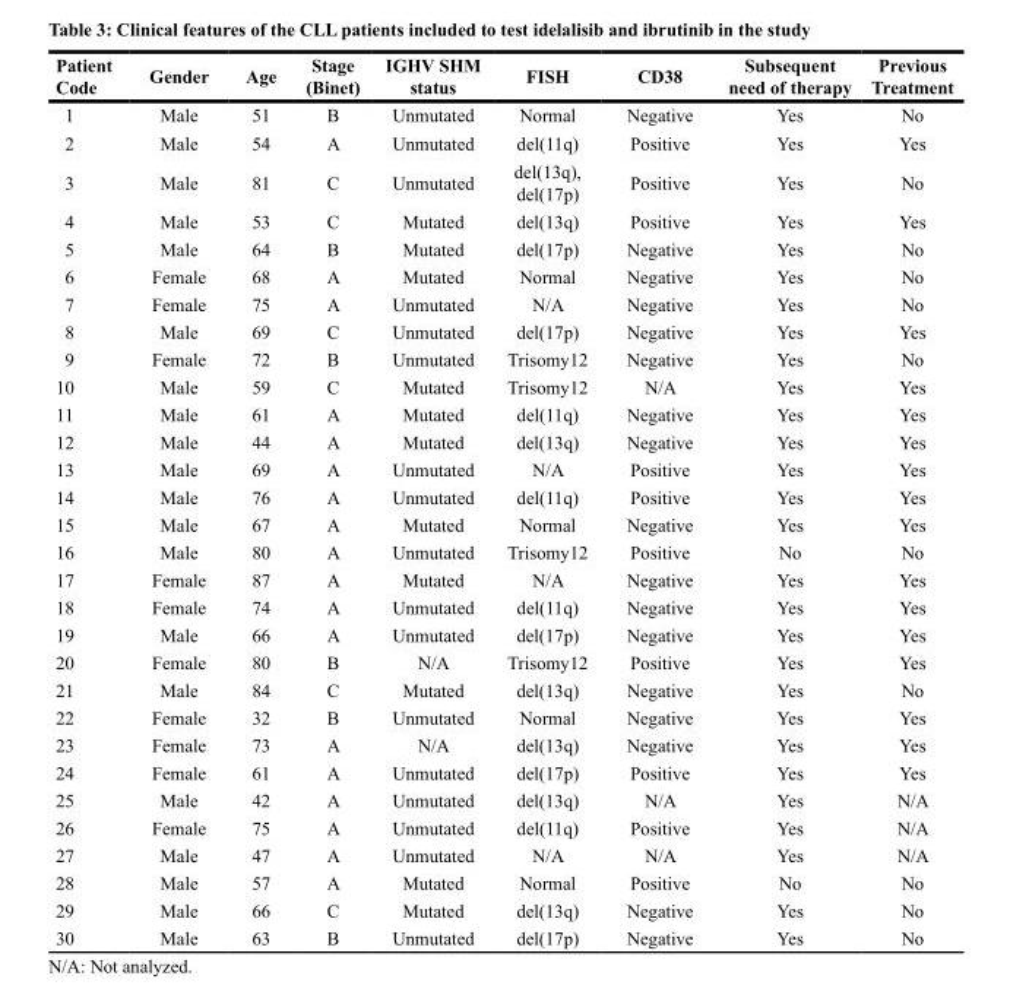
<table><thead><tr><td>Patient Code</td><td>Gender</td><td>Age</td><td>Stage (Binet)</td><td>IGHV SHM status</td><td>FISH</td><td>CD38</td><td>Subsequent need of therapy</td><td>Previous Treatment</td></tr></thead><tbody><tr><td>1</td><td>Male</td><td>51</td><td>B</td><td>Unmutated</td><td>Normal</td><td>Negative</td><td>Yes</td><td>No</td></tr><tr><td>2</td><td>Male</td><td>54</td><td>A</td><td>Unmutated</td><td>del(11q)</td><td>Positive</td><td>Yes</td><td>Yes</td></tr><tr><td>3</td><td>Male</td><td>81</td><td>C</td><td>Unmutated</td><td>del(13q), del(17p)</td><td>Positive</td><td>Yes</td><td>No</td></tr><tr><td>4</td><td>Male</td><td>53</td><td>C</td><td>Mutated</td><td>del(13q)</td><td>Positive</td><td>Yes</td><td>Yes</td></tr><tr><td>5</td><td>Male</td><td>64</td><td>B</td><td>Mutated</td><td>del(17p)</td><td>Negative</td><td>Yes</td><td>No</td></tr><tr><td>6</td><td>Female</td><td>68</td><td>A</td><td>Mutated</td><td>Normal</td><td>Negative</td><td>Yes</td><td>No</td></tr><tr><td>7</td><td>Female</td><td>75</td><td>A</td><td>Unmutated</td><td>N/A</td><td>Negative</td><td>Yes</td><td>No</td></tr><tr><td>8</td><td>Male</td><td>69</td><td>C</td><td>Unmutated</td><td>del(17p)</td><td>Negative</td><td>Yes</td><td>Yes</td></tr><tr><td>9</td><td>Female</td><td>72</td><td>B</td><td>Unmutated</td><td>Trisomy12</td><td>Negative</td><td>Yes</td><td>No</td></tr><tr><td>10</td><td>Male</td><td>59</td><td>C</td><td>Mutated</td><td>Trisomy12</td><td>N/A</td><td>Yes</td><td>Yes</td></tr><tr><td>11</td><td>Male</td><td>61</td><td>A</td><td>Mutated</td><td>del(11q)</td><td>Negative</td><td>Yes</td><td>Yes</td></tr><tr><td>12</td><td>Male</td><td>44</td><td>A</td><td>Mutated</td><td>del(13q)</td><td>Negative</td><td>Yes</td><td>Yes</td></tr><tr><td>13</td><td>Male</td><td>69</td><td>A</td><td>Unmutated</td><td>N/A</td><td>Positive</td><td>Yes</td><td>Yes</td></tr><tr><td>14</td><td>Male</td><td>76</td><td>A</td><td>Unmutated</td><td>del(11q)</td><td>Positive</td><td>Yes</td><td>Yes</td></tr><tr><td>15</td><td>Male</td><td>67</td><td>A</td><td>Mutated</td><td>Normal</td><td>Negative</td><td>Yes</td><td>Yes</td></tr><tr><td>16</td><td>Male</td><td>80</td><td>A</td><td>Unmutated</td><td>Trisomy12</td><td>Positive</td><td>No</td><td>No</td></tr><tr><td>17</td><td>Female</td><td>87</td><td>A</td><td>Mutated</td><td>N/A</td><td>Negative</td><td>Yes</td><td>Yes</td></tr><tr><td>18</td><td>Female</td><td>74</td><td>A</td><td>Unmutated</td><td>del(11q)</td><td>Negative</td><td>Yes</td><td>Yes</td></tr><tr><td>19</td><td>Male</td><td>66</td><td>A</td><td>Unmutated</td><td>del(17p)</td><td>Negative</td><td>Yes</td><td>Yes</td></tr><tr><td>20</td><td>Female</td><td>80</td><td>B</td><td>N/A</td><td>Trisomy12</td><td>Positive</td><td>Yes</td><td>Yes</td></tr><tr><td>21</td><td>Male</td><td>84</td><td>C</td><td>Mutated</td><td>del(13q)</td><td>Negative</td><td>Yes</td><td>No</td></tr><tr><td>22</td><td>Female</td><td>32</td><td>B</td><td>Unmutated</td><td>Normal</td><td>Negative</td><td>Yes</td><td>Yes</td></tr><tr><td>23</td><td>Female</td><td>73</td><td>A</td><td>N/A</td><td>del(13q)</td><td>Negative</td><td>Yes</td><td>Yes</td></tr><tr><td>24</td><td>Female</td><td>61</td><td>A</td><td>Unmutated</td><td>del(17p)</td><td>Positive</td><td>Yes</td><td>Yes</td></tr><tr><td>25</td><td>Male</td><td>42</td><td>A</td><td>Unmutated</td><td>del(13q)</td><td>N/A</td><td>Yes</td><td>N/A</td></tr><tr><td>26</td><td>Female</td><td>75</td><td>A</td><td>Unmutated</td><td>del(11q)</td><td>Positive</td><td>Yes</td><td>N/A</td></tr><tr><td>27</td><td>Male</td><td>47</td><td>A</td><td>Unmutated</td><td>N/A</td><td>N/A</td><td>Yes</td><td>N/A</td></tr><tr><td>28</td><td>Male</td><td>57</td><td>A</td><td>Mutated</td><td>Normal</td><td>Positive</td><td>No</td><td>No</td></tr><tr><td>29</td><td>Male</td><td>66</td><td>C</td><td>Mutated</td><td>del(13q)</td><td>Negative</td><td>Yes</td><td>No</td></tr><tr><td>30</td><td>Male</td><td>63</td><td>B</td><td>Unmutated</td><td>del(17p)</td><td>Negative</td><td>Yes</td><td>No</td></tr></tbody></table>